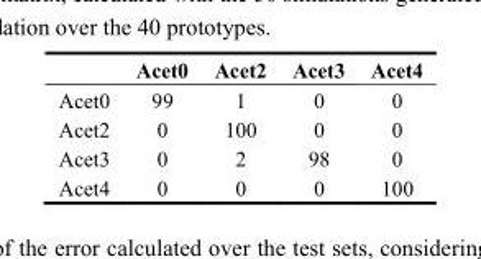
<table><thead><tr><td></td><td>Acet0</td><td>Acet2</td><td>Acet3</td><td>Acet4</td></tr></thead><tbody><tr><td>Acet0</td><td>99</td><td>1</td><td>0</td><td>0</td></tr><tr><td>Acet2</td><td>0</td><td>100</td><td>0</td><td>0</td></tr><tr><td>Acet3</td><td>0</td><td>2</td><td>98</td><td>0</td></tr><tr><td>Acet4</td><td>0</td><td>0</td><td>0</td><td>100</td></tr></tbody></table>